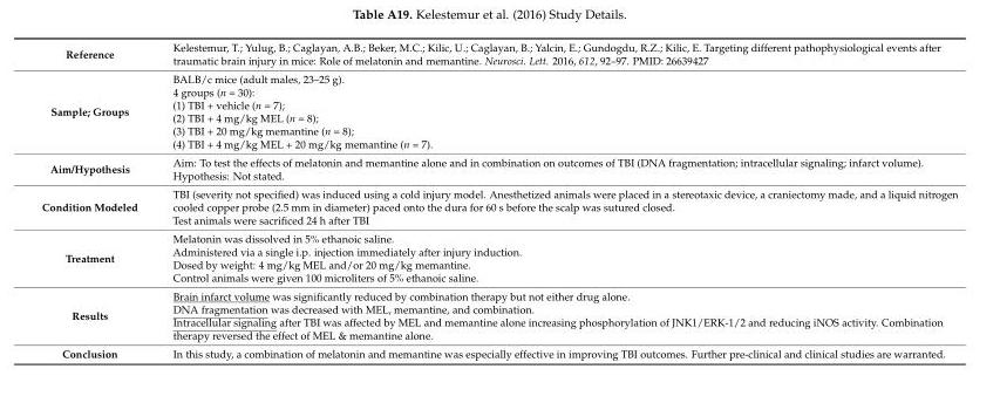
<table><tbody><tr><td>Reference</td><td>Kelestemur, T.; Yulug, B.; Caglayan, A.B.; Beker, M.C.; Kilic, U.; Caglayan, B.; Yalcin, E.; Gundogdu, R.Z.; Kilic, E. Targeting different pathophysiological events after traumatic brain injury in mice: Role of melatonin and memantine. Neurosci. Lett. 2016, 612, 92–97. PMID: 26639427</td></tr><tr><td>Sample; Groups</td><td>BALB/c mice (adult males, 23–25 g). 4 groups (n = 30): (1) TBI + vehicle (n = 7); (2) TBI + 4 mg/kg MEL (n = 8); (3) TBI + 20 mg/kg memantine (n = 8); (4) TBI + 4 mg/kg MEL + 20 mg/kg memantine (n = 7).</td></tr><tr><td>Aim/Hypothesis</td><td>Aim: To test the effects of melatonin and memantine alone and in combination on outcomes of TBI (DNA fragmentation; intracellular signaling; infarct volume). Hypothesis: Not stated.</td></tr><tr><td>Condition Modeled</td><td>TBI (severity not specified) was induced using a cold injury model. Anesthetized animals were placed in a stereotaxic device, a craniectomy made, and a liquid nitrogen cooled copper probe (2.5 mm in diameter) paced onto the dura for 60 s before the scalp was sutured closed. Test animals were sacrificed 24 h after TBI</td></tr><tr><td>Treatment</td><td>Melatonin was dissolved in 5% ethanoic saline. Administered via a single i.p. injection immediately after injury induction. Dosed by weight: 4 mg/kg MEL and/or 20 mg/kg memantine. Control animals were given 100 microliters of 5% ethanoic saline.</td></tr><tr><td>Results</td><td>Brain infarct volume was significantly reduced by combination therapy but not either drug alone. DNA fragmentation was decreased with MEL, memantine, and combination. Intracellular signaling after TBI was affected by MEL and memantine alone increasing phosphorylation of JNK1/ERK-1/2 and reducing iNOS activity. Combination therapy reversed the effect of MEL &amp; memantine alone.</td></tr><tr><td>Conclusion</td><td>In this study, a combination of melatonin and memantine was especially effective in improving TBI outcomes. Further pre-clinical and clinical studies are warranted.</td></tr></tbody></table>